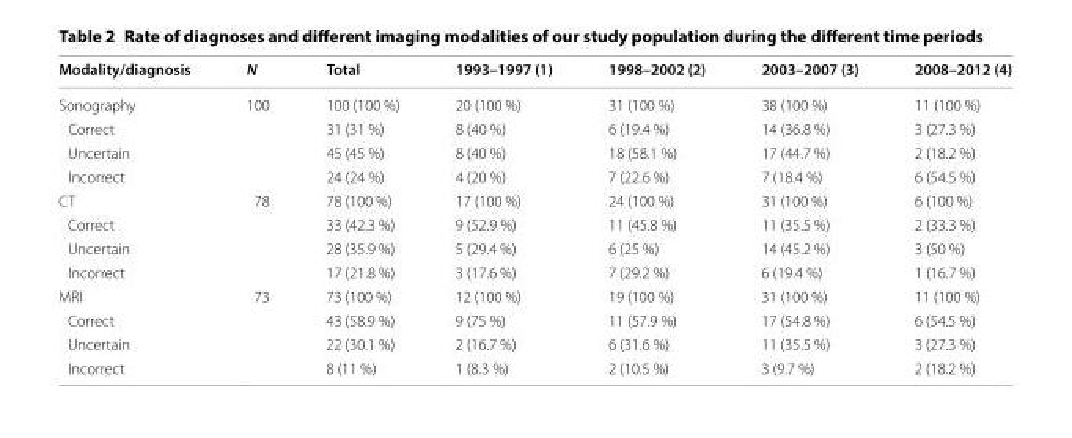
<table><thead><tr><td>Modality/diagnosis</td><td>N</td><td>Total</td><td>1993–1997 (1)</td><td>1998–2002 (2)</td><td>2003–2007 (3)</td><td>2008–2012 (4)</td></tr></thead><tbody><tr><td>Sonography</td><td>100</td><td>100 (100 %)</td><td>20 (100 %)</td><td>31 (100 %)</td><td>38 (100 %)</td><td>11 (100 %)</td></tr><tr><td>Correct</td><td></td><td>31 (31 %)</td><td>8 (40 %)</td><td>6 (19.4 %)</td><td>14 (36.8 %)</td><td>3 (27.3 %)</td></tr><tr><td>Uncertain</td><td></td><td>45 (45 %)</td><td>8 (40 %)</td><td>18 (58.1 %)</td><td>17 (44.7 %)</td><td>2 (18.2 %)</td></tr><tr><td>Incorrect</td><td></td><td>24 (24 %)</td><td>4 (20 %)</td><td>7 (22.6 %)</td><td>7 (18.4 %)</td><td>6 (54.5 %)</td></tr><tr><td>CT</td><td>78</td><td>78 (100 %)</td><td>17 (100 %)</td><td>24 (100 %)</td><td>31 (100 %)</td><td>6 (100 %)</td></tr><tr><td>Correct</td><td></td><td>33 (42.3 %)</td><td>9 (52.9 %)</td><td>11 (45.8 %)</td><td>11 (35.5 %)</td><td>2 (33.3 %)</td></tr><tr><td>Uncertain</td><td></td><td>28 (35.9 %)</td><td>5 (29.4 %)</td><td>6 (25 %)</td><td>14 (45.2 %)</td><td>3 (50 %)</td></tr><tr><td>Incorrect</td><td></td><td>17 (21.8 %)</td><td>3 (17.6 %)</td><td>7 (29.2 %)</td><td>6 (19.4 %)</td><td>1 (16.7 %)</td></tr><tr><td>MRI</td><td>73</td><td>73 (100 %)</td><td>12 (100 %)</td><td>19 (100 %)</td><td>31 (100 %)</td><td>11 (100 %)</td></tr><tr><td>Correct</td><td></td><td>43 (58.9 %)</td><td>9 (75 %)</td><td>11 (57.9 %)</td><td>17 (54.8 %)</td><td>6 (54.5 %)</td></tr><tr><td>Uncertain</td><td></td><td>22 (30.1 %)</td><td>2 (16.7 %)</td><td>6 (31.6 %)</td><td>11 (35.5 %)</td><td>3 (27.3 %)</td></tr><tr><td>Incorrect</td><td></td><td>8 (11 %)</td><td>1 (8.3 %)</td><td>2 (10.5 %)</td><td>3 (9.7 %)</td><td>2 (18.2 %)</td></tr></tbody></table>